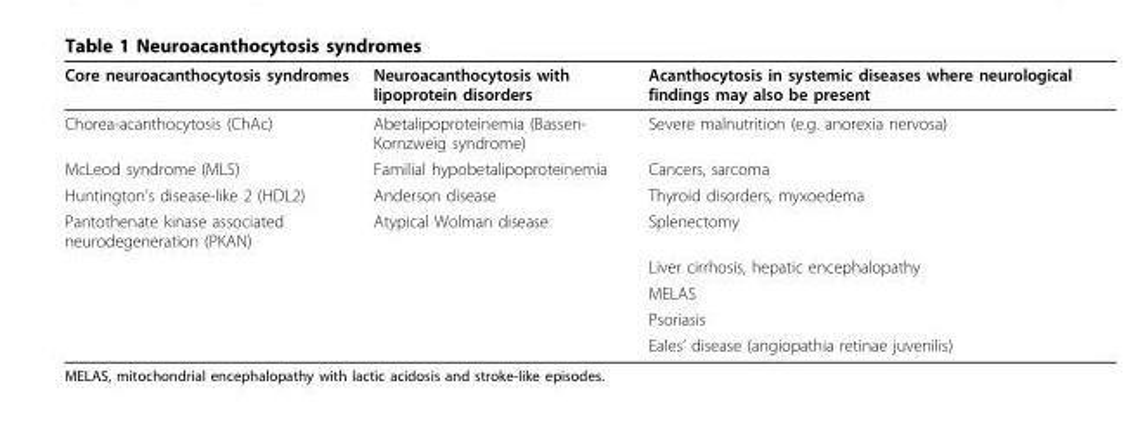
<table><thead><tr><td>Core neuroacanthocytosis syndromes</td><td>Neuroacanthocytosis with lipoprotein disorders</td><td>Acanthocytosis in systemic diseases where neurological findings may also be present</td></tr></thead><tbody><tr><td>Chorea-acanthocytosis (ChAc)</td><td>Abetalipoproteinemia (Bassen- Kornzweig syndrome)</td><td>Severe malnutrition (e.g. anorexia nervosa)</td></tr><tr><td>McLeod syndrome (MLS)</td><td>Familial hypobetalipoproteinemia</td><td>Cancers, sarcoma</td></tr><tr><td>Huntington’s disease-like 2 (HDL2)</td><td>Anderson disease</td><td>Thyroid disorders, myxoedema</td></tr><tr><td rowspan="5">Pantothenate kinase associated neurodegeneration (PKAN)</td><td>Atypical Wolman disease</td><td>Splenectomy</td></tr><tr><td></td><td>Liver cirrhosis, hepatic encephalopathy</td></tr><tr><td></td><td>MELAS</td></tr><tr><td></td><td>Psoriasis</td></tr><tr><td></td><td>Eales’ disease (angiopathia retinae juvenilis)</td></tr></tbody></table>